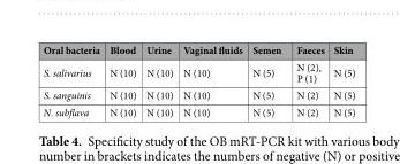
<table><thead><tr><td>Oral bacteria</td><td>Blood</td><td>Urine</td><td>Vaginal fluids</td><td>Semen</td><td>Faeces</td><td>Skin</td></tr></thead><tbody><tr><td>S. salivarius</td><td>N (10)</td><td>N (10)</td><td>N (10)</td><td>N (5)</td><td>N (2), P (1)</td><td>N (5)</td></tr><tr><td>S. sanguinis</td><td>N (10)</td><td>N (10)</td><td>N (10)</td><td>N (5)</td><td>N (2)</td><td>N (5)</td></tr><tr><td>N. subflava</td><td>N (10)</td><td>N (10)</td><td>N (10)</td><td>N (5)</td><td>N (2)</td><td>N (5)</td></tr></tbody></table>